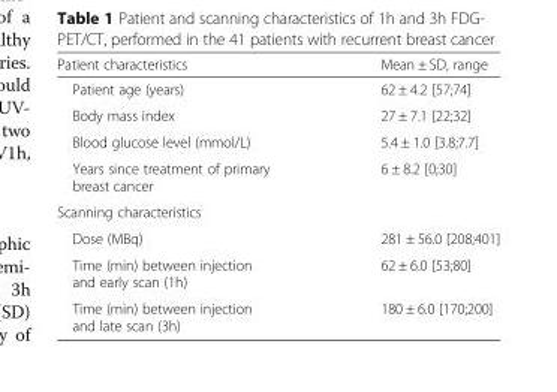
<table><thead><tr><td>Patient characteristics</td><td>Mean ± SD, range</td></tr></thead><tbody><tr><td>Patient age (years)</td><td>62 ± 4.2 [57;74]</td></tr><tr><td>Body mass index</td><td>27 ± 7.1 [22;32]</td></tr><tr><td>Blood glucose level (mmol/L)</td><td>5.4 ± 1.0 [3.8;7.7]</td></tr><tr><td>Years since treatment of primary breast cancer</td><td>6 ± 8.2 [0;30]</td></tr><tr><td colspan="2">Scanning characteristics</td></tr><tr><td>Dose (MBq)</td><td>281 ± 56.0 [208;401]</td></tr><tr><td>Time (min) between injection and early scan (1h)</td><td>62 ± 6.0 [53;80]</td></tr><tr><td>Time (min) between injection and late scan (3h)</td><td>180 ± 6.0 [170;200]</td></tr></tbody></table>